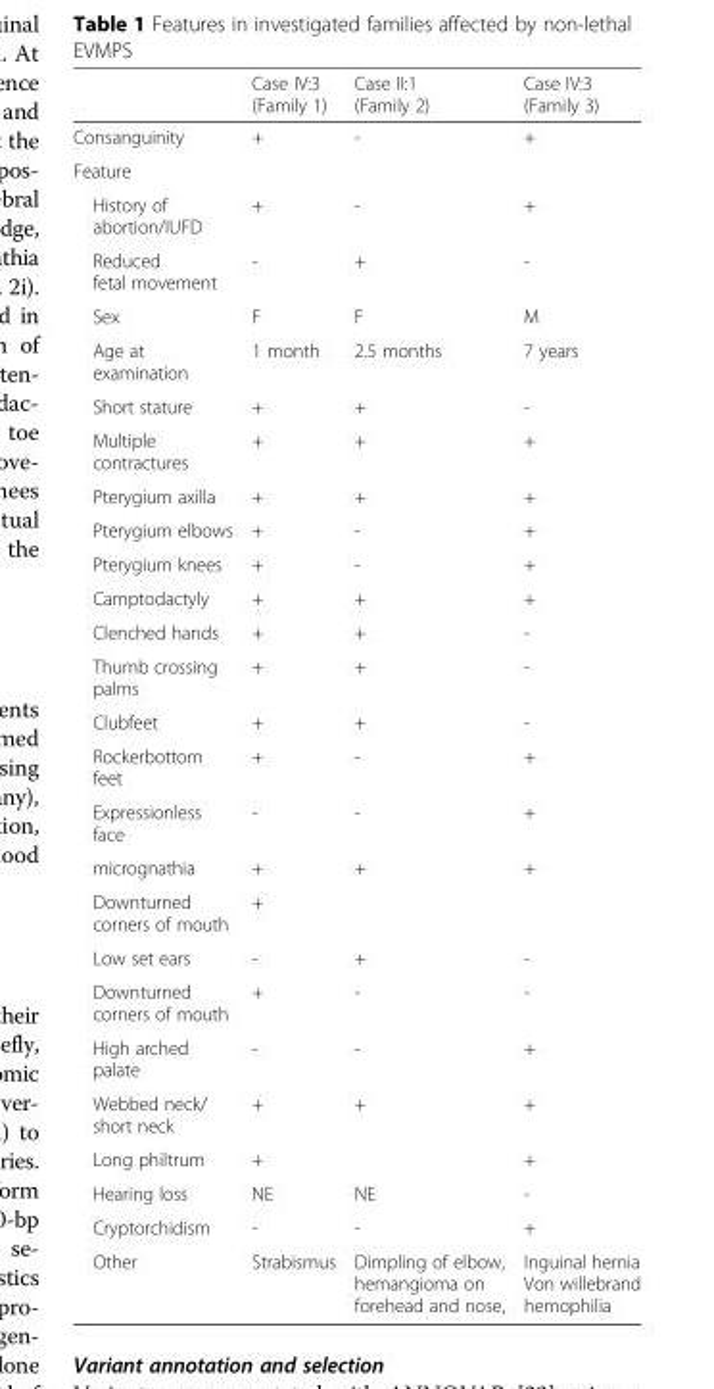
<table><thead><tr><td></td><td>Case IV:3 (Family 1)</td><td>Case II:1 (Family 2)</td><td>Case IV:3 (Family 3)</td></tr></thead><tbody><tr><td>Consanguinity</td><td>+</td><td>-</td><td>+</td></tr><tr><td colspan="4">Feature</td></tr><tr><td>History of abortion/IUFD</td><td>+</td><td>-</td><td>+</td></tr><tr><td>Reduced fetal movement</td><td>-</td><td>+</td><td>-</td></tr><tr><td>Sex</td><td>F</td><td>F</td><td>M</td></tr><tr><td>Age at examination</td><td>1 month</td><td>2.5 months</td><td>7 years</td></tr><tr><td>Short stature</td><td>+</td><td>+</td><td>-</td></tr><tr><td>Multiple contractures</td><td>+</td><td>+</td><td>+</td></tr><tr><td>Pterygium axilla</td><td>+</td><td>+</td><td>+</td></tr><tr><td>Pterygium elbows</td><td>+</td><td>-</td><td>+</td></tr><tr><td>Pterygium knees</td><td>+</td><td>-</td><td>+</td></tr><tr><td>Camptodactyly</td><td>+</td><td>+</td><td>+</td></tr><tr><td>Clenched hands</td><td>+</td><td>+</td><td>-</td></tr><tr><td>Thumb crossing palms</td><td>+</td><td>+</td><td>-</td></tr><tr><td>Clubfeet</td><td>+</td><td>+</td><td>-</td></tr><tr><td>Rockerbottom feet</td><td>+</td><td>-</td><td>+</td></tr><tr><td>Expressionless face</td><td>-</td><td>-</td><td>+</td></tr><tr><td>micrognathia</td><td>+</td><td>+</td><td>+</td></tr><tr><td>Downturned corners of mouth</td><td>+</td><td></td><td></td></tr><tr><td>Low set ears</td><td>-</td><td>+</td><td>-</td></tr><tr><td>Downturned corners of mouth</td><td>+</td><td>-</td><td>-</td></tr><tr><td>High arched palate</td><td>-</td><td>-</td><td>+</td></tr><tr><td>Webbed neck/ short neck</td><td>+</td><td>+</td><td>+</td></tr><tr><td>Long philtrum</td><td>+</td><td></td><td>+</td></tr><tr><td>Hearing loss</td><td>NE</td><td>NE</td><td>-</td></tr><tr><td>Cryptorchidism</td><td>-</td><td>-</td><td>+</td></tr><tr><td>Other</td><td>Strabismus</td><td>Dimpling of elbow, hemangioma on forehead and nose,</td><td>Inguinal hernia Von willebrand hemophilia</td></tr></tbody></table>